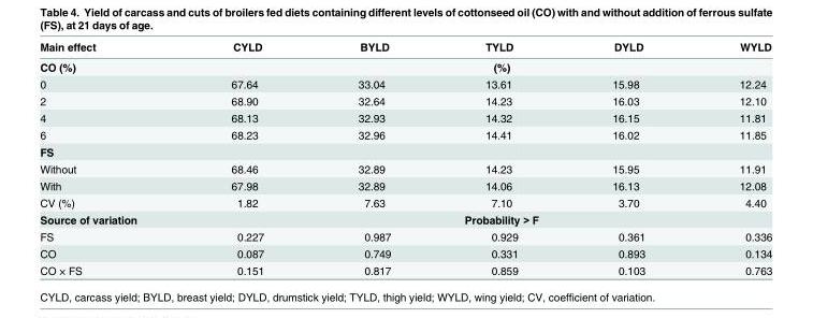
<table><thead><tr><td>Main effect</td><td>CYLD</td><td>BYLD</td><td>TYLD</td><td>DYLD</td><td>WYLD</td></tr></thead><tbody><tr><td>CO (%)</td><td colspan="5">(%)</td></tr><tr><td>0</td><td>67.64</td><td>33.04</td><td>13.61</td><td>15.98</td><td>12.24</td></tr><tr><td>2</td><td>68.90</td><td>32.64</td><td>14.23</td><td>16.03</td><td>12.10</td></tr><tr><td>4</td><td>68.13</td><td>32.93</td><td>14.32</td><td>16.15</td><td>11.81</td></tr><tr><td>6</td><td>68.23</td><td>32.96</td><td>14.41</td><td>16.02</td><td>11.85</td></tr><tr><td colspan="6">FS</td></tr><tr><td>Without</td><td>68.46</td><td>32.89</td><td>14.23</td><td>15.95</td><td>11.91</td></tr><tr><td>With</td><td>67.98</td><td>32.89</td><td>14.06</td><td>16.13</td><td>12.08</td></tr><tr><td>CV (%)</td><td>1.82</td><td>7.63</td><td>7.10</td><td>3.70</td><td>4.40</td></tr><tr><td>Source of variation</td><td colspan="5">Probability &gt; F</td></tr><tr><td>FS</td><td>0.227</td><td>0.987</td><td>0.929</td><td>0.361</td><td>0.336</td></tr><tr><td>CO</td><td>0.087</td><td>0.749</td><td>0.331</td><td>0.893</td><td>0.134</td></tr><tr><td>CO × FS</td><td>0.151</td><td>0.817</td><td>0.859</td><td>0.103</td><td>0.763</td></tr></tbody></table>